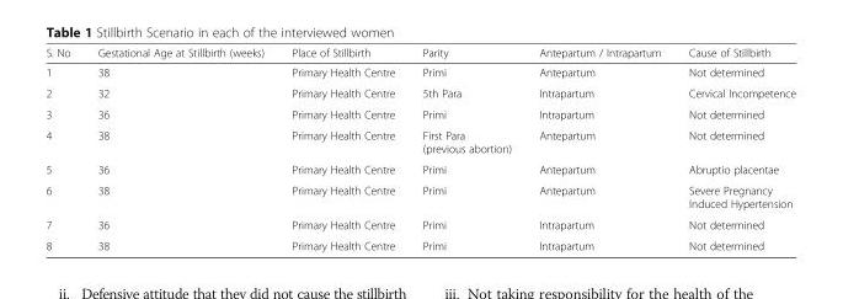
<table><thead><tr><td>S. No</td><td>Gestational Age at Stillbirth (weeks)</td><td>Place of Stillbirth</td><td>Parity</td><td>Antepartum / Intrapartum</td><td>Cause of Stillbirth</td></tr></thead><tbody><tr><td>1</td><td>38</td><td>Primary Health Centre</td><td>Primi</td><td>Antepartum</td><td>Not determined</td></tr><tr><td>2</td><td>32</td><td>Primary Health Centre</td><td>5th Para</td><td>Intrapartum</td><td>Cervical Incompetence</td></tr><tr><td>3</td><td>36</td><td>Primary Health Centre</td><td>Primi</td><td>Intrapartum</td><td>Not determined</td></tr><tr><td>4</td><td>38</td><td>Primary Health Centre</td><td>First Para (previous abortion)</td><td>Antepartum</td><td>Not determined</td></tr><tr><td>5</td><td>36</td><td>Primary Health Centre</td><td>Primi</td><td>Antepartum</td><td>Abruptio placentae</td></tr><tr><td>6</td><td>38</td><td>Primary Health Centre</td><td>Primi</td><td>Antepartum</td><td>Severe Pregnancy Induced Hypertension</td></tr><tr><td>7</td><td>36</td><td>Primary Health Centre</td><td>Primi</td><td>Intrapartum</td><td>Not determined</td></tr><tr><td>8</td><td>38</td><td>Primary Health Centre</td><td>Primi</td><td>Intrapartum</td><td>Not determined</td></tr></tbody></table>